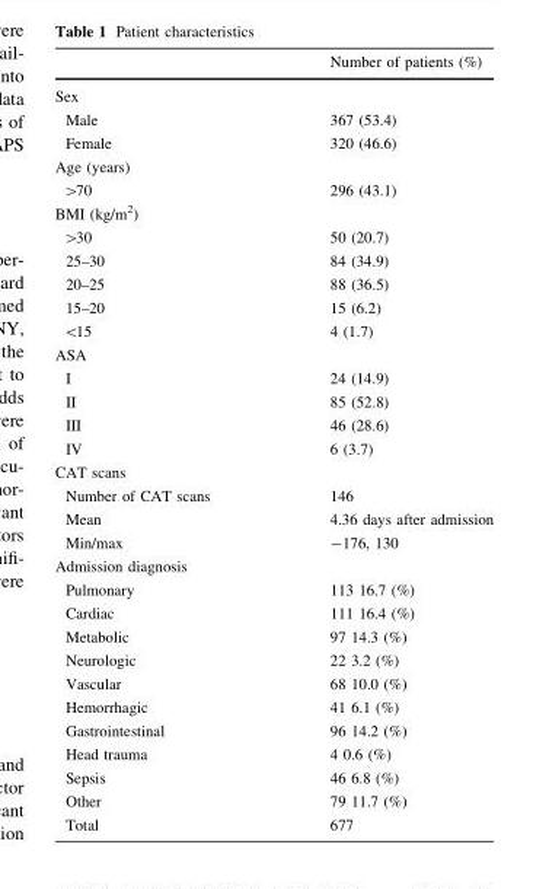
<table><thead><tr><td></td><td>Number of patients (%)</td></tr></thead><tbody><tr><td colspan="2">Sex</td></tr><tr><td>Male</td><td>367 (53.4)</td></tr><tr><td>Female</td><td>320 (46.6)</td></tr><tr><td colspan="2">Age (years)</td></tr><tr><td>&gt;70</td><td>296 (43.1)</td></tr><tr><td colspan="2">BMI (kg/m<sup>2</sup>)</td></tr><tr><td>&gt;30</td><td>50 (20.7)</td></tr><tr><td>25–30</td><td>84 (34.9)</td></tr><tr><td>20–25</td><td>88 (36.5)</td></tr><tr><td>15–20</td><td>15 (6.2)</td></tr><tr><td>&lt;15</td><td>4 (1.7)</td></tr><tr><td colspan="2">ASA</td></tr><tr><td>I</td><td>24 (14.9)</td></tr><tr><td>II</td><td>85 (52.8)</td></tr><tr><td>III</td><td>46 (28.6)</td></tr><tr><td>IV</td><td>6 (3.7)</td></tr><tr><td colspan="2">CAT scans</td></tr><tr><td>Number of CAT scans</td><td>146</td></tr><tr><td>Mean</td><td>4.36 days after admission</td></tr><tr><td>Min/max</td><td>-176, 130</td></tr><tr><td colspan="2">Admission diagnosis</td></tr><tr><td>Pulmonary</td><td>113 16.7 (%)</td></tr><tr><td>Cardiac</td><td>111 16.4 (%)</td></tr><tr><td>Metabolic</td><td>97 14.3 (%)</td></tr><tr><td>Neurologic</td><td>22 3.2 (%)</td></tr><tr><td>Vascular</td><td>68 10.0 (%)</td></tr><tr><td>Hemorrhagic</td><td>41 6.1 (%)</td></tr><tr><td>Gastrointestinal</td><td>96 14.2 (%)</td></tr><tr><td>Head trauma</td><td>4 0.6 (%)</td></tr><tr><td>Sepsis</td><td>46 6.8 (%)</td></tr><tr><td>Other</td><td>79 11.7 (%)</td></tr><tr><td>Total</td><td>677</td></tr></tbody></table>